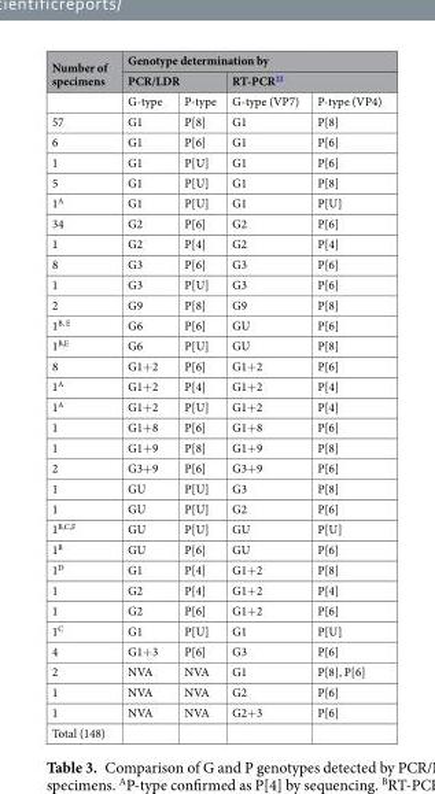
<table><thead><tr><td rowspan="3">Number of specimens</td><td colspan="4">Genotype determination by</td></tr><tr><td colspan="2">PCR/LDR</td><td colspan="2">RT-PCR<sup>22</sup></td></tr><tr><td>G-type</td><td>P-type</td><td>G-type (VP7)</td><td>P-type (VP4)</td></tr></thead><tbody><tr><td>57</td><td>G1</td><td>P[8]</td><td>G1</td><td>P[8]</td></tr><tr><td>6</td><td>G1</td><td>P[6]</td><td>G1</td><td>P[6]</td></tr><tr><td>1</td><td>G1</td><td>P[U]</td><td>G1</td><td>P[6]</td></tr><tr><td>5</td><td>G1</td><td>P[U]</td><td>G1</td><td>P[8]</td></tr><tr><td>1<sup>A</sup></td><td>G1</td><td>P[U]</td><td>G1</td><td>P[U]</td></tr><tr><td>34</td><td>G2</td><td>P[6]</td><td>G2</td><td>P[6]</td></tr><tr><td>1</td><td>G2</td><td>P[4]</td><td>G2</td><td>P[4]</td></tr><tr><td>8</td><td>G3</td><td>P[6]</td><td>G3</td><td>P[6]</td></tr><tr><td>1</td><td>G3</td><td>P[U]</td><td>G3</td><td>P[6]</td></tr><tr><td>2</td><td>G9</td><td>P[8]</td><td>G9</td><td>P[8]</td></tr><tr><td>1<sup>B, E</sup></td><td>G6</td><td>P[6]</td><td>GU</td><td>P[6]</td></tr><tr><td>1<sup>B,E</sup></td><td>G6</td><td>P[U]</td><td>GU</td><td>P[8]</td></tr><tr><td>8</td><td>G1+2</td><td>P[6]</td><td>G1+2</td><td>P[6]</td></tr><tr><td>1<sup>A</sup></td><td>G1+2</td><td>P[4]</td><td>G1+2</td><td>P[4]</td></tr><tr><td>1<sup>A</sup></td><td>G1+2</td><td>P[U]</td><td>G1+2</td><td>P[4]</td></tr><tr><td>1</td><td>G1+8</td><td>P[6]</td><td>G1+8</td><td>P[6]</td></tr><tr><td>1</td><td>G1+9</td><td>P[8]</td><td>G1+9</td><td>P[8]</td></tr><tr><td>2</td><td>G3+9</td><td>P[6]</td><td>G3+9</td><td>P[6]</td></tr><tr><td>1</td><td>GU</td><td>P[U]</td><td>G3</td><td>P[8]</td></tr><tr><td>1</td><td>GU</td><td>P[U]</td><td>G2</td><td>P[6]</td></tr><tr><td>1<sup>B,C,F</sup></td><td>GU</td><td>P[U]</td><td>GU</td><td>P[U]</td></tr><tr><td>1<sup>B</sup></td><td>GU</td><td>P[6]</td><td>GU</td><td>P[6]</td></tr><tr><td>1<sup>D</sup></td><td>G1</td><td>P[4]</td><td>G1+2</td><td>P[8]</td></tr><tr><td>1</td><td>G2</td><td>P[4]</td><td>G1+2</td><td>P[4]</td></tr><tr><td>1</td><td>G2</td><td>P[6]</td><td>G1+2</td><td>P[6]</td></tr><tr><td>1<sup>C</sup></td><td>G1</td><td>P[U]</td><td>G1</td><td>P[U]</td></tr><tr><td>4</td><td>G1+3</td><td>P[6]</td><td>G3</td><td>P[6]</td></tr><tr><td>2</td><td>NVA</td><td>NVA</td><td>G1</td><td>P[8], P[6]</td></tr><tr><td>1</td><td>NVA</td><td>NVA</td><td>G2</td><td>P[6]</td></tr><tr><td>1</td><td>NVA</td><td>NVA</td><td>G2+3</td><td>P[6]</td></tr><tr><td>Total (148)</td><td></td><td></td><td></td><td></td></tr></tbody></table>